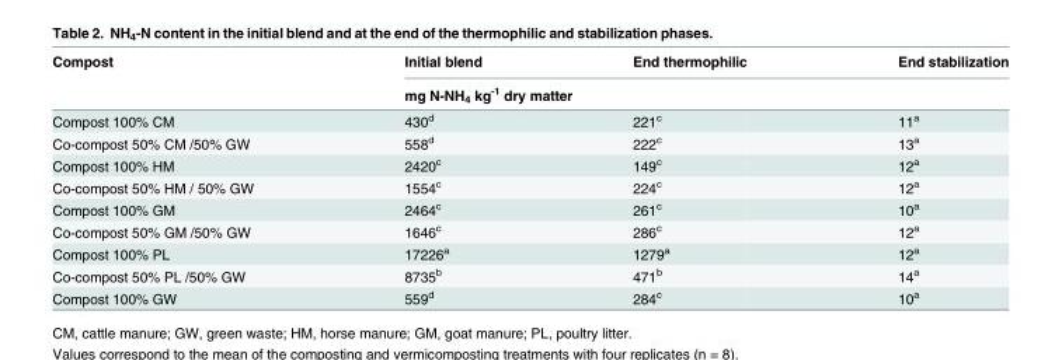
<table><thead><tr><td rowspan="2">Compost</td><td>Initial blend</td><td>End thermophilic</td><td>End stabilization</td></tr><tr><td colspan="3">mg N-NH<sub>4</sub> kg<sup>-1</sup> dry matter</td></tr></thead><tbody><tr><td>Compost 100% CM</td><td>430<sup>d</sup></td><td>221<sup>c</sup></td><td>11<sup>a</sup></td></tr><tr><td>Co-compost 50% CM /50% GW</td><td>558<sup>d</sup></td><td>222<sup>c</sup></td><td>13<sup>a</sup></td></tr><tr><td>Compost 100% HM</td><td>2420<sup>c</sup></td><td>149<sup>c</sup></td><td>12<sup>a</sup></td></tr><tr><td>Co-compost 50% HM / 50% GW</td><td>1554<sup>c</sup></td><td>224<sup>c</sup></td><td>12<sup>a</sup></td></tr><tr><td>Compost 100% GM</td><td>2464<sup>c</sup></td><td>261<sup>c</sup></td><td>10<sup>a</sup></td></tr><tr><td>Co-compost 50% GM /50% GW</td><td>1646<sup>c</sup></td><td>286<sup>c</sup></td><td>12<sup>a</sup></td></tr><tr><td>Compost 100% PL</td><td>17226<sup>a</sup></td><td>1279<sup>a</sup></td><td>12<sup>a</sup></td></tr><tr><td>Co-compost 50% PL /50% GW</td><td>8735<sup>b</sup></td><td>471<sup>b</sup></td><td>14<sup>a</sup></td></tr><tr><td>Compost 100% GW</td><td>559<sup>d</sup></td><td>284<sup>c</sup></td><td>10<sup>a</sup></td></tr></tbody></table>